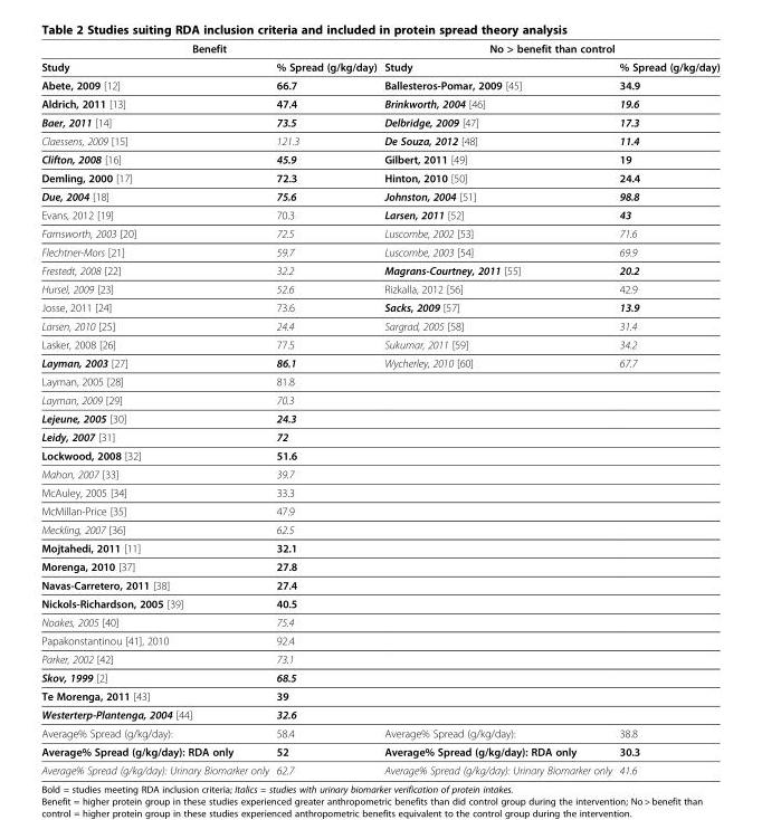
<table><thead><tr><td colspan="2">Benefit</td><td colspan="2">No &gt; benefit than control</td></tr><tr><td>Study</td><td>% Spread (g/kg/day)</td><td>Study</td><td>% Spread (g/kg/day)</td></tr></thead><tbody><tr><td>Abete, 2009 [12]</td><td>66.7</td><td>Ballesteros-Pomar, 2009 [45]</td><td>34.9</td></tr><tr><td>Aldrich, 2011 [13]</td><td>47.4</td><td>Brinkworth, 2004 [46]</td><td>19.6</td></tr><tr><td>Baer, 2011 [14]</td><td>73.5</td><td>Delbridge, 2009 [47]</td><td>17.3</td></tr><tr><td>Claessens, 2009 [15]</td><td>121.3</td><td>De Souza, 2012 [48]</td><td>11.4</td></tr><tr><td>Clifton, 2008 [16]</td><td>45.9</td><td>Gilbert, 2011 [49]</td><td>19</td></tr><tr><td>Demling, 2000 [17]</td><td>72.3</td><td>Hinton, 2010 [50]</td><td>24.4</td></tr><tr><td>Due, 2004 [18]</td><td>75.6</td><td>Johnston, 2004 [51]</td><td>98.8</td></tr><tr><td>Evans, 2012 [19]</td><td>70.3</td><td>Larsen, 2011 [52]</td><td>43</td></tr><tr><td>Farnsworth, 2003 [20]</td><td>72.5</td><td>Luscombe, 2002 [53]</td><td>71.6</td></tr><tr><td>Flechtner-Mors [21]</td><td>59.7</td><td>Luscombe, 2003 [54]</td><td>69.9</td></tr><tr><td>Frestedt, 2008 [22]</td><td>32.2</td><td>Magrans-Courtney, 2011 [55]</td><td>20.2</td></tr><tr><td>Hursel, 2009 [23]</td><td>52.6</td><td>Rizkalla, 2012 [56]</td><td>42.9</td></tr><tr><td>Josse, 2011 [24]</td><td>73.6</td><td>Sacks, 2009 [57]</td><td>13.9</td></tr><tr><td>Larsen, 2010 [25]</td><td>24.4</td><td>Sargrad, 2005 [58]</td><td>31.4</td></tr><tr><td>Lasker, 2008 [26]</td><td>77.5</td><td>Sukumar, 2011 [59]</td><td>34.2</td></tr><tr><td>Layman, 2003 [27]</td><td>86.1</td><td>Wycherley, 2010 [60]</td><td>67.7</td></tr><tr><td>Layman, 2005 [28]</td><td>81.8</td><td></td><td></td></tr><tr><td>Layman, 2009 [29]</td><td>70.3</td><td></td><td></td></tr><tr><td>Lejeune, 2005 [30]</td><td>24.3</td><td></td><td></td></tr><tr><td>Leidy, 2007 [31]</td><td>72</td><td></td><td></td></tr><tr><td>Lockwood, 2008 [32]</td><td>51.6</td><td></td><td></td></tr><tr><td>Mahon, 2007 [33]</td><td>39.7</td><td></td><td></td></tr><tr><td>McAuley, 2005 [34]</td><td>33.3</td><td></td><td></td></tr><tr><td>McMillan-Price [35]</td><td>47.9</td><td></td><td></td></tr><tr><td>Meckling, 2007 [36]</td><td>62.5</td><td></td><td></td></tr><tr><td>Mojtahedi, 2011 [11]</td><td>32.1</td><td></td><td></td></tr><tr><td>Morenga, 2010 [37]</td><td>27.8</td><td></td><td></td></tr><tr><td>Navas-Carretero, 2011 [38]</td><td>27.4</td><td></td><td></td></tr><tr><td>Nickols-Richardson, 2005 [39]</td><td>40.5</td><td></td><td></td></tr><tr><td>Noakes, 2005 [40]</td><td>75.4</td><td></td><td></td></tr><tr><td>Papakonstantinou [41], 2010</td><td>92.4</td><td></td><td></td></tr><tr><td>Parker, 2002 [42]</td><td>73.1</td><td></td><td></td></tr><tr><td>Skov, 1999 [2]</td><td>68.5</td><td></td><td></td></tr><tr><td>Te Morenga, 2011 [43]</td><td>39</td><td></td><td></td></tr><tr><td>Westerterp-Plantenga, 2004 [44]</td><td>32.6</td><td></td><td></td></tr><tr><td>Average% Spread (g/kg/day):</td><td>58.4</td><td>Average% Spread (g/kg/day):</td><td>38.8</td></tr><tr><td>Average% Spread (g/kg/day): RDA only</td><td>52</td><td>Average% Spread (g/kg/day): RDA only</td><td>30.3</td></tr><tr><td>Average% Spread (g/kg/day): Urinary Biomarker only</td><td>62.7</td><td>Average% Spread (g/kg/day): Urinary Biomarker only</td><td>41.6</td></tr></tbody></table>